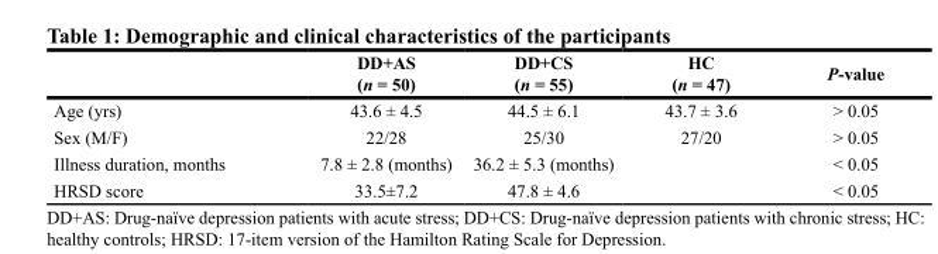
<table><thead><tr><td></td><td>DD+AS (n = 50)</td><td>DD+CS (n = 55)</td><td>HC (n = 47)</td><td>P-value</td></tr></thead><tbody><tr><td>Age (yrs)</td><td>43.6 ± 4.5</td><td>44.5 ± 6.1</td><td>43.7 ± 3.6</td><td>&gt; 0.05</td></tr><tr><td>Sex (M/F)</td><td>22/28</td><td>25/30</td><td>27/20</td><td>&gt; 0.05</td></tr><tr><td>Illness duration, months</td><td>7.8 ± 2.8 (months)</td><td>36.2 ± 5.3 (months)</td><td></td><td>&lt; 0.05</td></tr><tr><td>HRSD score</td><td>33.5±7.2</td><td>47.8 ± 4.6</td><td></td><td>&lt; 0.05</td></tr></tbody></table>